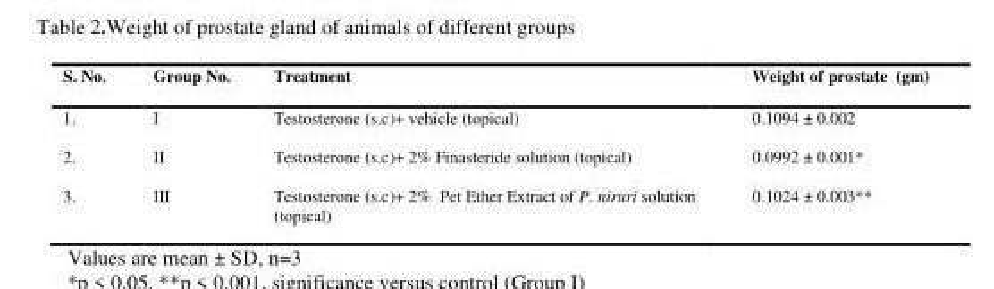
<table><thead><tr><td>S. No.</td><td>Group No.</td><td>Treatment</td><td>Weight of prostate (gm)</td></tr></thead><tbody><tr><td>1.</td><td>I</td><td>Testosterone (s.c)+ vehicle (topical)</td><td>0.1094 ± 0.002</td></tr><tr><td>2.</td><td>II</td><td>Testosterone (s.c)+ 2% Finasteride solution (topical)</td><td>0.0992 ± 0.001*</td></tr><tr><td>3.</td><td>III</td><td>Testosterone (s.c)+ 2% Pet Ether Extract of P. niruri solution (topical)</td><td>0.1024 ± 0.003**</td></tr></tbody></table>